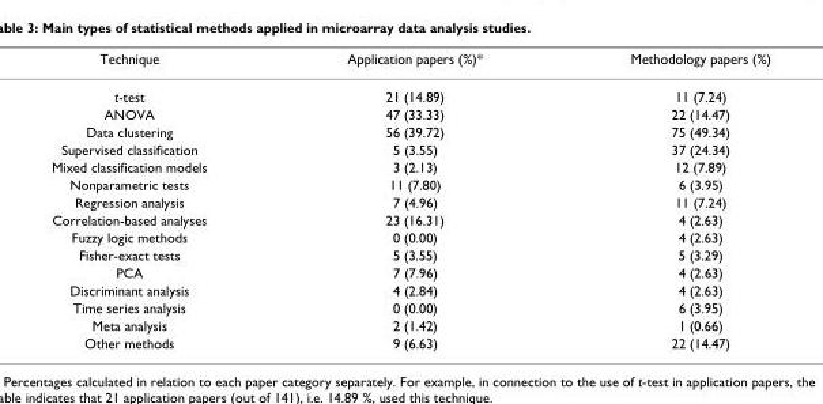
<table><thead><tr><td>Technique</td><td>Application papers (%)*</td><td>Methodology papers (%)</td></tr></thead><tbody><tr><td>t-test</td><td>21 (14.89)</td><td>11 (7.24)</td></tr><tr><td>ANOVA</td><td>47 (33.33)</td><td>22 (14.47)</td></tr><tr><td>Data clustering</td><td>56 (39.72)</td><td>75 (49.34)</td></tr><tr><td>Supervised classification</td><td>5 (3.55)</td><td>37 (24.34)</td></tr><tr><td>Mixed classification models</td><td>3 (2.13)</td><td>12 (7.89)</td></tr><tr><td>Nonparametric tests</td><td>11 (7.80)</td><td>6 (3.95)</td></tr><tr><td>Regression analysis</td><td>7 (4.96)</td><td>11 (7.24)</td></tr><tr><td>Correlation-based analyses</td><td>23 (16.31)</td><td>4 (2.63)</td></tr><tr><td>Fuzzy logic methods</td><td>0 (0.00)</td><td>4 (2.63)</td></tr><tr><td>Fisher-exact tests</td><td>5 (3.55)</td><td>5 (3.29)</td></tr><tr><td>PCA</td><td>7 (7.96)</td><td>4 (2.63)</td></tr><tr><td>Discriminant analysis</td><td>4 (2.84)</td><td>4 (2.63)</td></tr><tr><td>Time series analysis</td><td>0 (0.00)</td><td>6 (3.95)</td></tr><tr><td>Meta analysis</td><td>2 (1.42)</td><td>1 (0.66)</td></tr><tr><td>Other methods</td><td>9 (6.63)</td><td>22 (14.47)</td></tr></tbody></table>